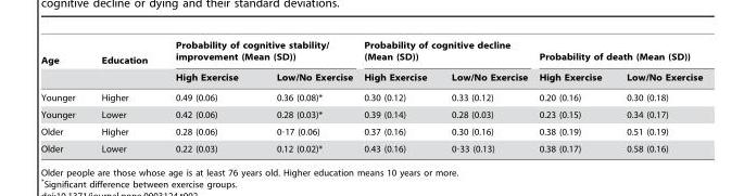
<table><thead><tr><td rowspan="2">Age</td><td rowspan="2">Education</td><td colspan="2">Probability of cognitive stability/ improvement (Mean (SD))</td><td colspan="2">Probability of cognitive decline (Mean (SD))</td><td colspan="2">Probability of death (Mean (SD))</td></tr><tr><td>High Exercise</td><td>Low/No Exercise</td><td>High Exercise</td><td>Low/No Exercise</td><td>High Exercise</td><td>Low/No Exercise</td></tr></thead><tbody><tr><td>Younger</td><td>Higher</td><td>0.49 (0.06)</td><td>0.36 (0.08)*</td><td>0.30 (0.12)</td><td>0.33 (0.12)</td><td>0.20 (0.16)</td><td>0.30 (0.18)</td></tr><tr><td>Younger</td><td>Lower</td><td>0.42 (0.06)</td><td>0.28 (0.03)*</td><td>0.39 (0.14)</td><td>0.28 (0.03)</td><td>0.23 (0.15)</td><td>0.34 (0.17)</td></tr><tr><td>Older</td><td>Higher</td><td>0.28 (0.06)</td><td>0·17 (0.06)</td><td>0.37 (0.16)</td><td>0.30 (0.16)</td><td>0.38 (0.19)</td><td>0.51 (0.19)</td></tr><tr><td>Older</td><td>Lower</td><td>0.22 (0.03)</td><td>0.12 (0.02)*</td><td>0.43 (0.16)</td><td>0·33 (0.13)</td><td>0.38 (0.17)</td><td>0.58 (0.16)</td></tr></tbody></table>